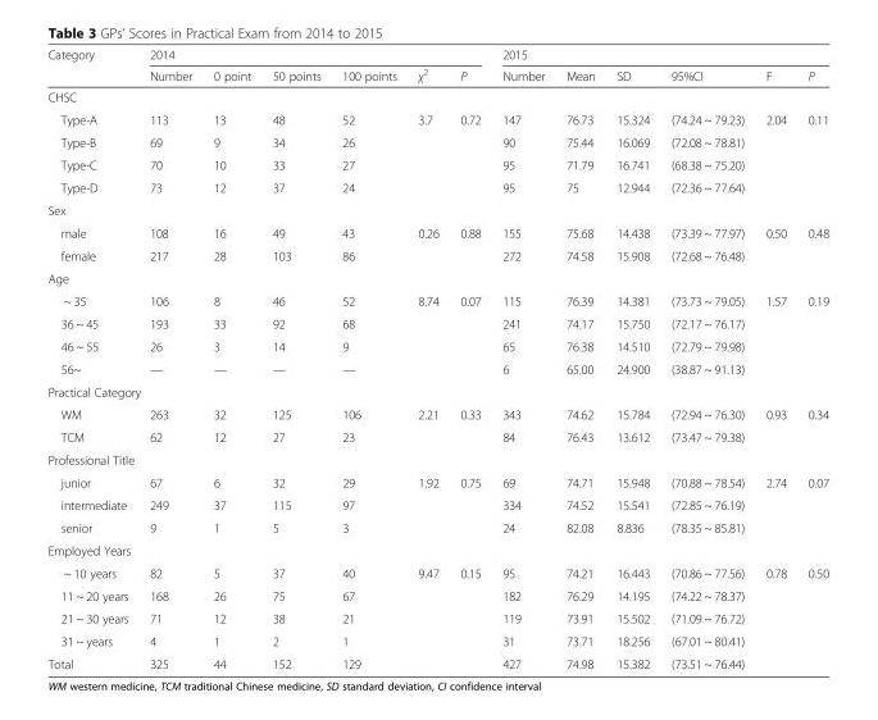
<table><thead><tr><td rowspan="2">Category</td><td colspan="6">2014</td><td colspan="6">2015</td></tr><tr><td>Number</td><td>0 point</td><td>50 points</td><td>100 points</td><td>χ<sup>2</sup></td><td>P</td><td>Number</td><td>Mean</td><td>SD</td><td>95%CI</td><td>F</td><td>P</td></tr></thead><tbody><tr><td colspan="13">CHSC</td></tr><tr><td>Type-A</td><td>113</td><td>13</td><td>48</td><td>52</td><td>3.7</td><td>0.72</td><td>147</td><td>76.73</td><td>15.324</td><td>(74.24 ~ 79.23)</td><td>2.04</td><td>0.11</td></tr><tr><td>Type-B</td><td>69</td><td>9</td><td>34</td><td>26</td><td></td><td></td><td>90</td><td>75.44</td><td>16.069</td><td>(72.08 ~ 78.81)</td><td></td><td></td></tr><tr><td>Type-C</td><td>70</td><td>10</td><td>33</td><td>27</td><td></td><td></td><td>95</td><td>71.79</td><td>16.741</td><td>(68.38 ~ 75.20)</td><td></td><td></td></tr><tr><td>Type-D</td><td>73</td><td>12</td><td>37</td><td>24</td><td></td><td></td><td>95</td><td>75</td><td>12.944</td><td>(72.36 ~ 77.64)</td><td></td><td></td></tr><tr><td colspan="13">Sex</td></tr><tr><td>male</td><td>108</td><td>16</td><td>49</td><td>43</td><td>0.26</td><td>0.88</td><td>155</td><td>75.68</td><td>14.438</td><td>(73.39 ~ 77.97)</td><td>0.50</td><td>0.48</td></tr><tr><td>female</td><td>217</td><td>28</td><td>103</td><td>86</td><td></td><td></td><td>272</td><td>74.58</td><td>15.908</td><td>(72.68 ~ 76.48)</td><td></td><td></td></tr><tr><td colspan="13">Age</td></tr><tr><td>~ 35</td><td>106</td><td>8</td><td>46</td><td>52</td><td>8.74</td><td>0.07</td><td>115</td><td>76.39</td><td>14.381</td><td>(73.73 ~ 79.05)</td><td>1.57</td><td>0.19</td></tr><tr><td>36 ~ 45</td><td>193</td><td>33</td><td>92</td><td>68</td><td></td><td></td><td>241</td><td>74.17</td><td>15.750</td><td>(72.17 ~ 76.17)</td><td></td><td></td></tr><tr><td>46 ~ 55</td><td>26</td><td>3</td><td>14</td><td>9</td><td></td><td></td><td>65</td><td>76.38</td><td>14.510</td><td>(72.79 ~ 79.98)</td><td></td><td></td></tr><tr><td>56~</td><td>—</td><td>—</td><td>—</td><td>—</td><td></td><td></td><td>6</td><td>65.00</td><td>24.900</td><td>(38.87 ~ 91.13)</td><td></td><td></td></tr><tr><td colspan="13">Practical Category</td></tr><tr><td>WM</td><td>263</td><td>32</td><td>125</td><td>106</td><td>2.21</td><td>0.33</td><td>343</td><td>74.62</td><td>15.784</td><td>(72.94 ~ 76.30)</td><td>0.93</td><td>0.34</td></tr><tr><td>TCM</td><td>62</td><td>12</td><td>27</td><td>23</td><td></td><td></td><td>84</td><td>76.43</td><td>13.612</td><td>(73.47 ~ 79.38)</td><td></td><td></td></tr><tr><td colspan="13">Professional Title</td></tr><tr><td>junior</td><td>67</td><td>6</td><td>32</td><td>29</td><td>1.92</td><td>0.75</td><td>69</td><td>74.71</td><td>15.948</td><td>(70.88 ~ 78.54)</td><td>2.74</td><td>0.07</td></tr><tr><td>intermediate</td><td>249</td><td>37</td><td>115</td><td>97</td><td></td><td></td><td>334</td><td>74.52</td><td>15.541</td><td>(72.85 ~ 76.19)</td><td></td><td></td></tr><tr><td>senior</td><td>9</td><td>1</td><td>5</td><td>3</td><td></td><td></td><td>24</td><td>82.08</td><td>8.836</td><td>(78.35 ~ 85.81)</td><td></td><td></td></tr><tr><td colspan="13">Employed Years</td></tr><tr><td>~ 10 years</td><td>82</td><td>5</td><td>37</td><td>40</td><td>9.47</td><td>0.15</td><td>95</td><td>74.21</td><td>16.443</td><td>(70.86 ~ 77.56)</td><td>0.78</td><td>0.50</td></tr><tr><td>11 ~ 20 years</td><td>168</td><td>26</td><td>75</td><td>67</td><td></td><td></td><td>182</td><td>76.29</td><td>14.195</td><td>(74.22 ~ 78.37)</td><td></td><td></td></tr><tr><td>21 ~ 30 years</td><td>71</td><td>12</td><td>38</td><td>21</td><td></td><td></td><td>119</td><td>73.91</td><td>15.502</td><td>(71.09 ~ 76.72)</td><td></td><td></td></tr><tr><td>31 ~ years</td><td>4</td><td>1</td><td>2</td><td>1</td><td></td><td></td><td>31</td><td>73.71</td><td>18.256</td><td>(67.01 ~ 80.41)</td><td></td><td></td></tr><tr><td>Total</td><td>325</td><td>44</td><td>152</td><td>129</td><td></td><td></td><td>427</td><td>74.98</td><td>15.382</td><td>(73.51 ~ 76.44)</td><td></td><td></td></tr></tbody></table>